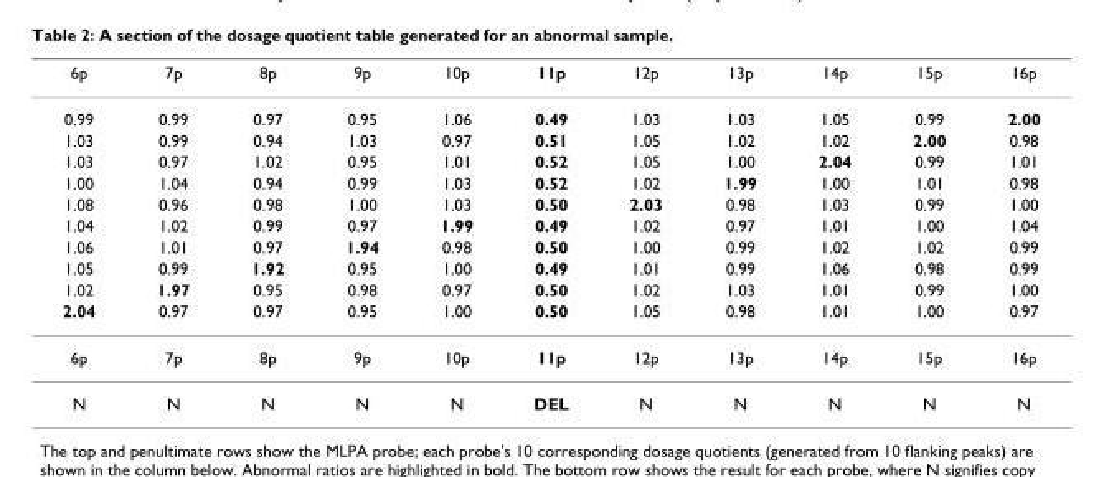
<table><thead><tr><td>6p</td><td>7p</td><td>8p</td><td>9p</td><td>10p</td><td>11p</td><td>12p</td><td>13p</td><td>14p</td><td>15p</td><td>16p</td></tr></thead><tbody><tr><td>0.99</td><td>0.99</td><td>0.97</td><td>0.95</td><td>1.06</td><td>0.49</td><td>1.03</td><td>1.03</td><td>1.05</td><td>0.99</td><td>2.00</td></tr><tr><td>1.03</td><td>0.99</td><td>0.94</td><td>1.03</td><td>0.97</td><td>0.51</td><td>1.05</td><td>1.02</td><td>1.02</td><td>2.00</td><td>0.98</td></tr><tr><td>1.03</td><td>0.97</td><td>1.02</td><td>0.95</td><td>1.01</td><td>0.52</td><td>1.05</td><td>1.00</td><td>2.04</td><td>0.99</td><td>1.01</td></tr><tr><td>1.00</td><td>1.04</td><td>0.94</td><td>0.99</td><td>1.03</td><td>0.52</td><td>1.02</td><td>1.99</td><td>1.00</td><td>1.01</td><td>0.98</td></tr><tr><td>1.08</td><td>0.96</td><td>0.98</td><td>1.00</td><td>1.03</td><td>0.50</td><td>2.03</td><td>0.98</td><td>1.03</td><td>0.99</td><td>1.00</td></tr><tr><td>1.04</td><td>1.02</td><td>0.99</td><td>0.97</td><td>1.99</td><td>0.49</td><td>1.02</td><td>0.97</td><td>1.01</td><td>1.00</td><td>1.04</td></tr><tr><td>1.06</td><td>1.01</td><td>0.97</td><td>1.94</td><td>0.98</td><td>0.50</td><td>1.00</td><td>0.99</td><td>1.02</td><td>1.02</td><td>0.99</td></tr><tr><td>1.05</td><td>0.99</td><td>1.92</td><td>0.95</td><td>1.00</td><td>0.49</td><td>1.01</td><td>0.99</td><td>1.06</td><td>0.98</td><td>0.99</td></tr><tr><td>1.02</td><td>1.97</td><td>0.95</td><td>0.98</td><td>0.97</td><td>0.50</td><td>1.02</td><td>1.03</td><td>1.01</td><td>0.99</td><td>1.00</td></tr><tr><td>2.04</td><td>0.97</td><td>0.97</td><td>0.95</td><td>1.00</td><td>0.50</td><td>1.05</td><td>0.98</td><td>1.01</td><td>1.00</td><td>0.97</td></tr><tr><td>6p</td><td>7p</td><td>8p</td><td>9p</td><td>10p</td><td>11p</td><td>12p</td><td>13p</td><td>14p</td><td>15p</td><td>16p</td></tr><tr><td>N</td><td>N</td><td>N</td><td>N</td><td>N</td><td>DEL</td><td>N</td><td>N</td><td>N</td><td>N</td><td>N</td></tr></tbody></table>